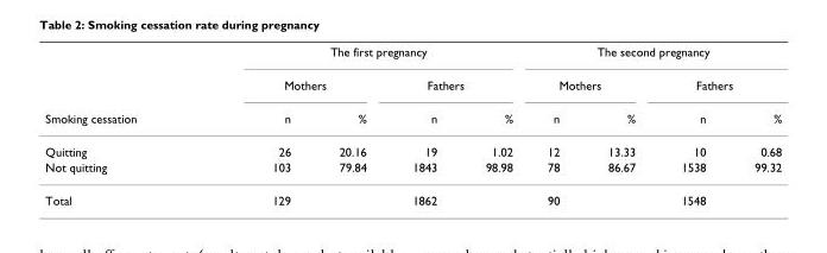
<table><thead><tr><td rowspan="3">Smoking cessation</td><td colspan="4">The first pregnancy</td><td colspan="4">The second pregnancy</td></tr><tr><td colspan="2">Mothers</td><td colspan="2">Fathers</td><td colspan="2">Mothers</td><td colspan="2">Fathers</td></tr><tr><td>n</td><td>%</td><td>n</td><td>%</td><td>n</td><td>%</td><td>n</td><td>%</td></tr></thead><tbody><tr><td>Quitting</td><td>26</td><td>20.16</td><td>19</td><td>1.02</td><td>12</td><td>13.33</td><td>10</td><td>0.68</td></tr><tr><td>Not quitting</td><td>103</td><td>79.84</td><td>1843</td><td>98.98</td><td>78</td><td>86.67</td><td>1538</td><td>99.32</td></tr><tr><td>Total</td><td>129</td><td></td><td>1862</td><td></td><td>90</td><td></td><td>1548</td><td></td></tr></tbody></table>